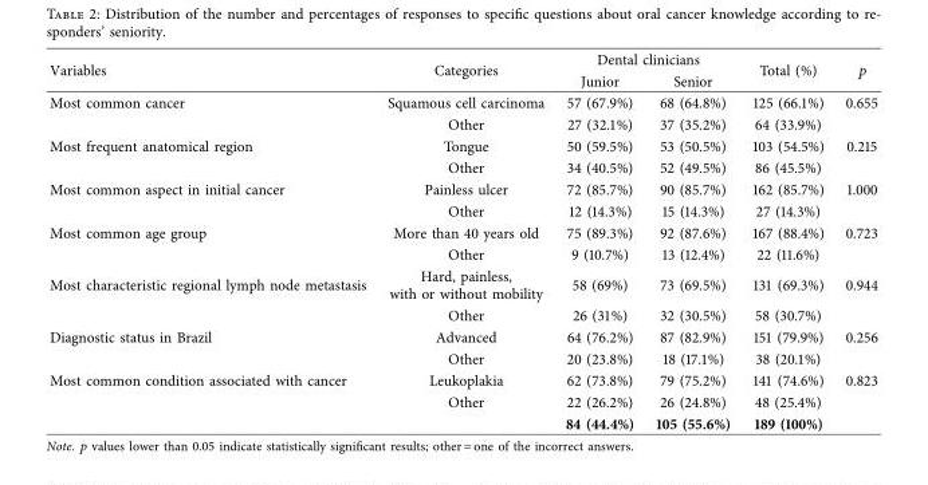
<table><thead><tr><td rowspan="2">Variables</td><td rowspan="2">Categories</td><td colspan="2">Dental clinicians</td><td rowspan="2">Total (%)</td><td rowspan="2">p</td></tr><tr><td>Junior</td><td>Senior</td></tr></thead><tbody><tr><td rowspan="2">Most common cancer</td><td>Squamous cell carcinoma</td><td>57 (67.9%)</td><td>68 (64.8%)</td><td>125 (66.1%)</td><td>0.655</td></tr><tr><td>Other</td><td>27 (32.1%)</td><td>37 (35.2%)</td><td>64 (33.9%)</td><td></td></tr><tr><td rowspan="2">Most frequent anatomical region</td><td>Tongue</td><td>50 (59.5%)</td><td>53 (50.5%)</td><td>103 (54.5%)</td><td>0.215</td></tr><tr><td>Other</td><td>34 (40.5%)</td><td>52 (49.5%)</td><td>86 (45.5%)</td><td></td></tr><tr><td rowspan="2">Most common aspect in initial cancer</td><td>Painless ulcer</td><td>72 (85.7%)</td><td>90 (85.7%)</td><td>162 (85.7%)</td><td>1.000</td></tr><tr><td>Other</td><td>12 (14.3%)</td><td>15 (14.3%)</td><td>27 (14.3%)</td><td></td></tr><tr><td rowspan="2">Most common age group</td><td>More than 40 years old</td><td>75 (89.3%)</td><td>92 (87.6%)</td><td>167 (88.4%)</td><td>0.723</td></tr><tr><td>Other</td><td>9 (10.7%)</td><td>13 (12.4%)</td><td>22 (11.6%)</td><td></td></tr><tr><td rowspan="2">Most characteristic regional lymph node metastasis</td><td>Hard, painless, with or without mobility</td><td>58 (69%)</td><td>73 (69.5%)</td><td>131 (69.3%)</td><td>0.944</td></tr><tr><td>Other</td><td>26 (31%)</td><td>32 (30.5%)</td><td>58 (30.7%)</td><td></td></tr><tr><td rowspan="2">Diagnostic status in Brazil</td><td>Advanced</td><td>64 (76.2%)</td><td>87 (82.9%)</td><td>151 (79.9%)</td><td>0.256</td></tr><tr><td>Other</td><td>20 (23.8%)</td><td>18 (17.1%)</td><td>38 (20.1%)</td><td></td></tr><tr><td rowspan="3">Most common condition associated with cancer</td><td>Leukoplakia</td><td>62 (73.8%)</td><td>79 (75.2%)</td><td>141 (74.6%)</td><td>0.823</td></tr><tr><td>Other</td><td>22 (26.2%)</td><td>26 (24.8%)</td><td>48 (25.4%)</td><td></td></tr><tr><td></td><td>84 (44.4%)</td><td>105 (55.6%)</td><td>189 (100%)</td><td></td></tr></tbody></table>